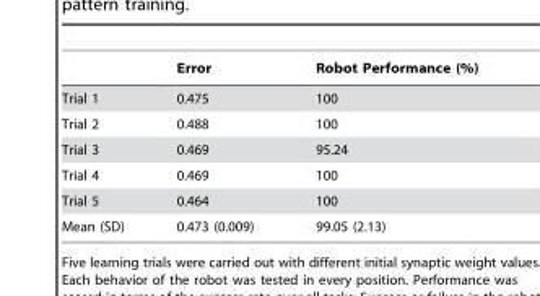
<table><thead><tr><td></td><td>Error</td><td>Robot Performance (%)</td></tr></thead><tbody><tr><td>Trial 1</td><td>0.475</td><td>100</td></tr><tr><td>Trial 2</td><td>0.488</td><td>100</td></tr><tr><td>Trial 3</td><td>0.469</td><td>95.24</td></tr><tr><td>Trial 4</td><td>0.469</td><td>100</td></tr><tr><td>Trial 5</td><td>0.464</td><td>100</td></tr><tr><td>Mean (SD)</td><td>0.473 (0.009)</td><td>99.05 (2.13)</td></tr></tbody></table>